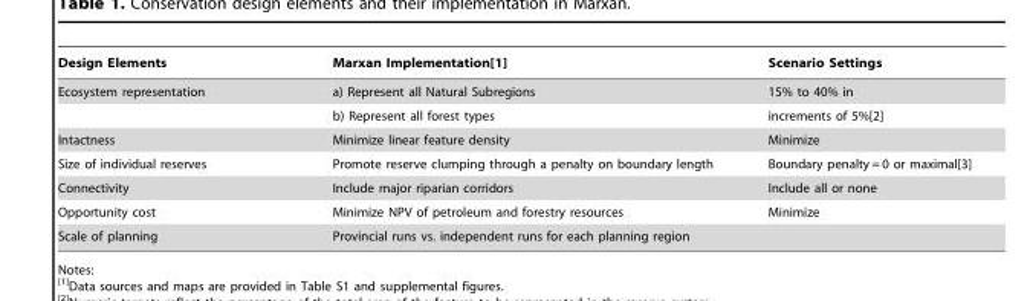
<table><thead><tr><td>Design Elements</td><td>Marxan Implementation[1]</td><td>Scenario Settings</td></tr></thead><tbody><tr><td rowspan="2">Ecosystem representation</td><td>a) Represent all Natural Subregions</td><td>15% to 40% in</td></tr><tr><td>b) Represent all forest types</td><td>increments of 5%[2]</td></tr><tr><td>Intactness</td><td>Minimize linear feature density</td><td>Minimize</td></tr><tr><td>Size of individual reserves</td><td>Promote reserve clumping through a penalty on boundary length</td><td>Boundary penalty = 0 or maximal[3]</td></tr><tr><td>Connectivity</td><td>Include major riparian corridors</td><td>Include all or none</td></tr><tr><td>Opportunity cost</td><td>Minimize NPV of petroleum and forestry resources</td><td>Minimize</td></tr><tr><td>Scale of planning</td><td>Provincial runs vs. independent runs for each planning region</td><td></td></tr></tbody></table>